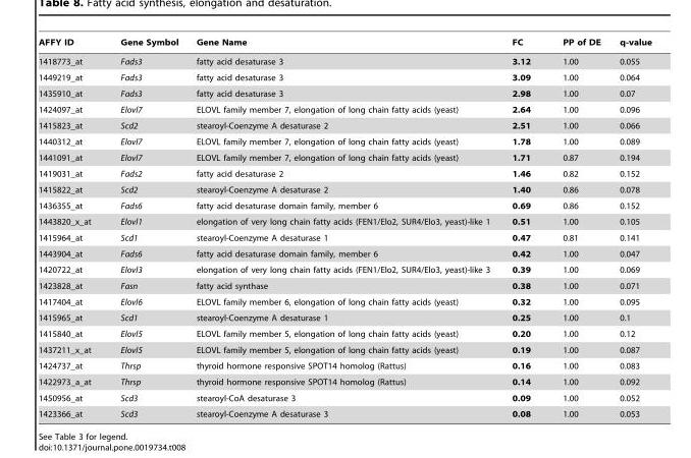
<table><thead><tr><td>AFFY ID</td><td>Gene Symbol</td><td>Gene Name</td><td>FC</td><td>PP of DE</td><td>q-value</td></tr></thead><tbody><tr><td>1418773_at</td><td>Fads3</td><td>fatty acid desaturase 3</td><td>3.12</td><td>1.00</td><td>0.055</td></tr><tr><td>1449219_at</td><td>Fads3</td><td>fatty acid desaturase 3</td><td>3.09</td><td>1.00</td><td>0.064</td></tr><tr><td>1435910_at</td><td>Fads3</td><td>fatty acid desaturase 3</td><td>2.98</td><td>1.00</td><td>0.07</td></tr><tr><td>1424097_at</td><td>Elovl7</td><td>ELOVL family member 7, elongation of long chain fatty acids (yeast)</td><td>2.64</td><td>1.00</td><td>0.096</td></tr><tr><td>1415823_at</td><td>Scd2</td><td>stearoyl-Coenzyme A desaturase 2</td><td>2.51</td><td>1.00</td><td>0.066</td></tr><tr><td>1440312_at</td><td>Elovl7</td><td>ELOVL family member 7, elongation of long chain fatty acids (yeast)</td><td>1.78</td><td>1.00</td><td>0.089</td></tr><tr><td>1441091_at</td><td>Elovl7</td><td>ELOVL family member 7, elongation of long chain fatty acids (yeast)</td><td>1.71</td><td>0.87</td><td>0.194</td></tr><tr><td>1419031_at</td><td>Fads2</td><td>fatty acid desaturase 2</td><td>1.46</td><td>0.82</td><td>0.152</td></tr><tr><td>1415822_at</td><td>Scd2</td><td>stearoyl-Coenzyme A desaturase 2</td><td>1.40</td><td>0.86</td><td>0.078</td></tr><tr><td>1436355_at</td><td>Fads6</td><td>fatty acid desaturase domain family, member 6</td><td>0.69</td><td>0.86</td><td>0.152</td></tr><tr><td>1443820_x_at</td><td>Elovl1</td><td>elongation of very long chain fatty acids (FEN1/Elo2, SUR4/Elo3, yeast)-like 1</td><td>0.51</td><td>1.00</td><td>0.105</td></tr><tr><td>1415964_at</td><td>Scd1</td><td>stearoyl-Coenzyme A desaturase 1</td><td>0.47</td><td>0.81</td><td>0.141</td></tr><tr><td>1443904_at</td><td>Fads6</td><td>fatty acid desaturase domain family, member 6</td><td>0.42</td><td>1.00</td><td>0.047</td></tr><tr><td>1420722_at</td><td>Elovl3</td><td>elongation of very long chain fatty acids (FEN1/Elo2, SUR4/Elo3, yeast)-like 3</td><td>0.39</td><td>1.00</td><td>0.069</td></tr><tr><td>1423828_at</td><td>Fasn</td><td>fatty acid synthase</td><td>0.38</td><td>1.00</td><td>0.071</td></tr><tr><td>1417404_at</td><td>Elovl6</td><td>ELOVL family member 6, elongation of long chain fatty acids (yeast)</td><td>0.32</td><td>1.00</td><td>0.095</td></tr><tr><td>1415965_at</td><td>Scd1</td><td>stearoyl-Coenzyme A desaturase 1</td><td>0.25</td><td>1.00</td><td>0.1</td></tr><tr><td>1415840_at</td><td>Elovl5</td><td>ELOVL family member 5, elongation of long chain fatty acids (yeast)</td><td>0.20</td><td>1.00</td><td>0.12</td></tr><tr><td>1437211_x_at</td><td>Elovl5</td><td>ELOVL family member 5, elongation of long chain fatty acids (yeast)</td><td>0.19</td><td>1.00</td><td>0.087</td></tr><tr><td>1424737_at</td><td>Thrsp</td><td>thyroid hormone responsive SPOT14 homolog (Rattus)</td><td>0.16</td><td>1.00</td><td>0.083</td></tr><tr><td>1422973_a_at</td><td>Thrsp</td><td>thyroid hormone responsive SPOT14 homolog (Rattus)</td><td>0.14</td><td>1.00</td><td>0.092</td></tr><tr><td>1450956_at</td><td>Scd3</td><td>stearoyl-CoA desaturase 3</td><td>0.09</td><td>1.00</td><td>0.052</td></tr><tr><td>1423366_at</td><td>Scd3</td><td>stearoyl-Coenzyme A desaturase 3</td><td>0.08</td><td>1.00</td><td>0.053</td></tr></tbody></table>